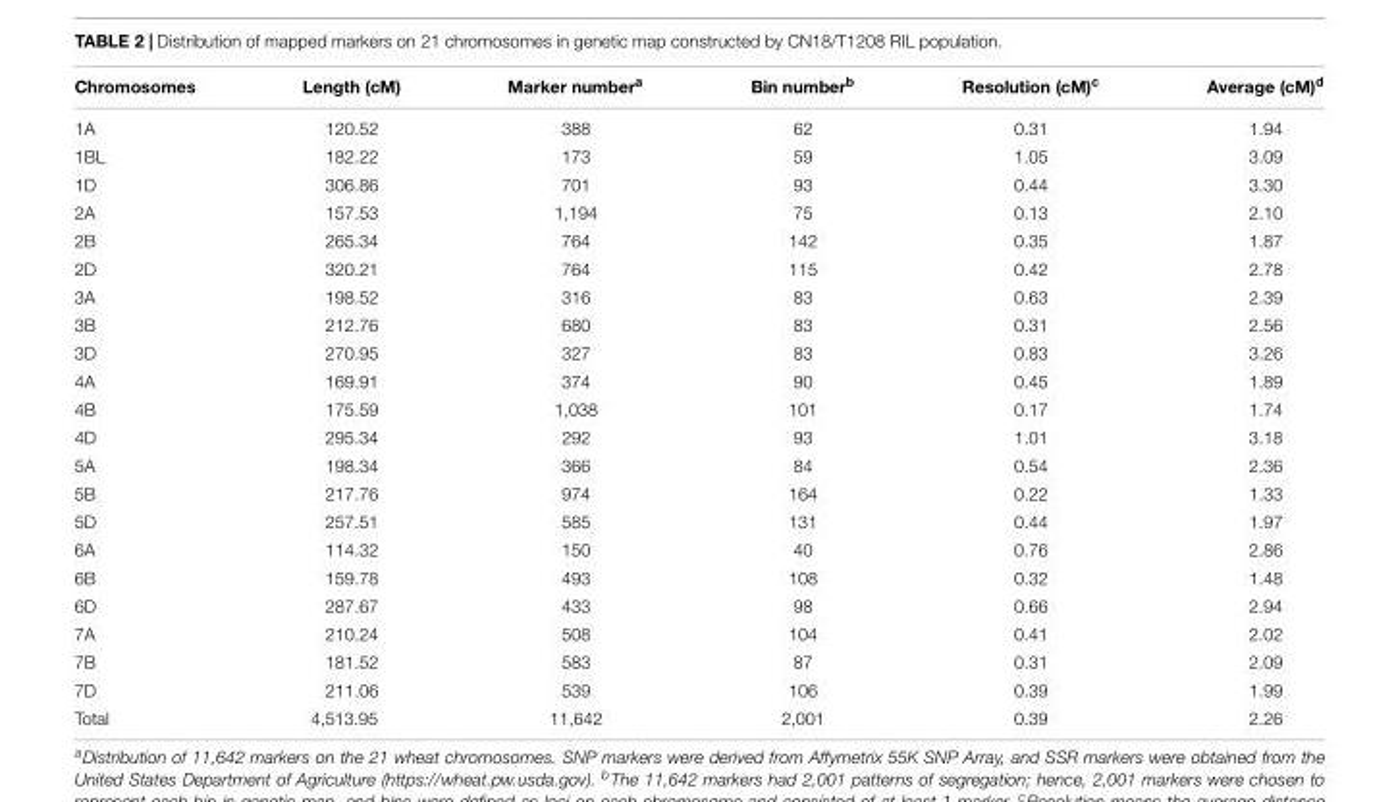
<table><thead><tr><td>Chromosomes</td><td>Length (cM)</td><td>Marker number<sup>a</sup></td><td>Bin number<sup>b</sup></td><td>Resolution (cM)<sup>c</sup></td><td>Average (cM)<sup>d</sup></td></tr></thead><tbody><tr><td>1A</td><td>120.52</td><td>388</td><td>62</td><td>0.31</td><td>1.94</td></tr><tr><td>1BL</td><td>182.22</td><td>173</td><td>59</td><td>1.05</td><td>3.09</td></tr><tr><td>1D</td><td>306.86</td><td>701</td><td>93</td><td>0.44</td><td>3.30</td></tr><tr><td>2A</td><td>157.53</td><td>1,194</td><td>75</td><td>0.13</td><td>2.10</td></tr><tr><td>2B</td><td>265.34</td><td>764</td><td>142</td><td>0.35</td><td>1.87</td></tr><tr><td>2D</td><td>320.21</td><td>764</td><td>115</td><td>0.42</td><td>2.78</td></tr><tr><td>3A</td><td>198.52</td><td>316</td><td>83</td><td>0.63</td><td>2.39</td></tr><tr><td>3B</td><td>212.76</td><td>680</td><td>83</td><td>0.31</td><td>2.56</td></tr><tr><td>3D</td><td>270.95</td><td>327</td><td>83</td><td>0.83</td><td>3.26</td></tr><tr><td>4A</td><td>169.91</td><td>374</td><td>90</td><td>0.45</td><td>1.89</td></tr><tr><td>4B</td><td>175.59</td><td>1,038</td><td>101</td><td>0.17</td><td>1.74</td></tr><tr><td>4D</td><td>295.34</td><td>292</td><td>93</td><td>1.01</td><td>3.18</td></tr><tr><td>5A</td><td>198.34</td><td>366</td><td>84</td><td>0.54</td><td>2.36</td></tr><tr><td>5B</td><td>217.76</td><td>974</td><td>164</td><td>0.22</td><td>1.33</td></tr><tr><td>5D</td><td>257.51</td><td>585</td><td>131</td><td>0.44</td><td>1.97</td></tr><tr><td>6A</td><td>114.32</td><td>150</td><td>40</td><td>0.76</td><td>2.86</td></tr><tr><td>6B</td><td>159.78</td><td>493</td><td>108</td><td>0.32</td><td>1.48</td></tr><tr><td>6D</td><td>287.67</td><td>433</td><td>98</td><td>0.66</td><td>2.94</td></tr><tr><td>7A</td><td>210.24</td><td>508</td><td>104</td><td>0.41</td><td>2.02</td></tr><tr><td>7B</td><td>181.52</td><td>583</td><td>87</td><td>0.31</td><td>2.09</td></tr><tr><td>7D</td><td>211.06</td><td>539</td><td>106</td><td>0.39</td><td>1.99</td></tr><tr><td>Total</td><td>4,513.95</td><td>11,642</td><td>2,001</td><td>0.39</td><td>2.26</td></tr></tbody></table>